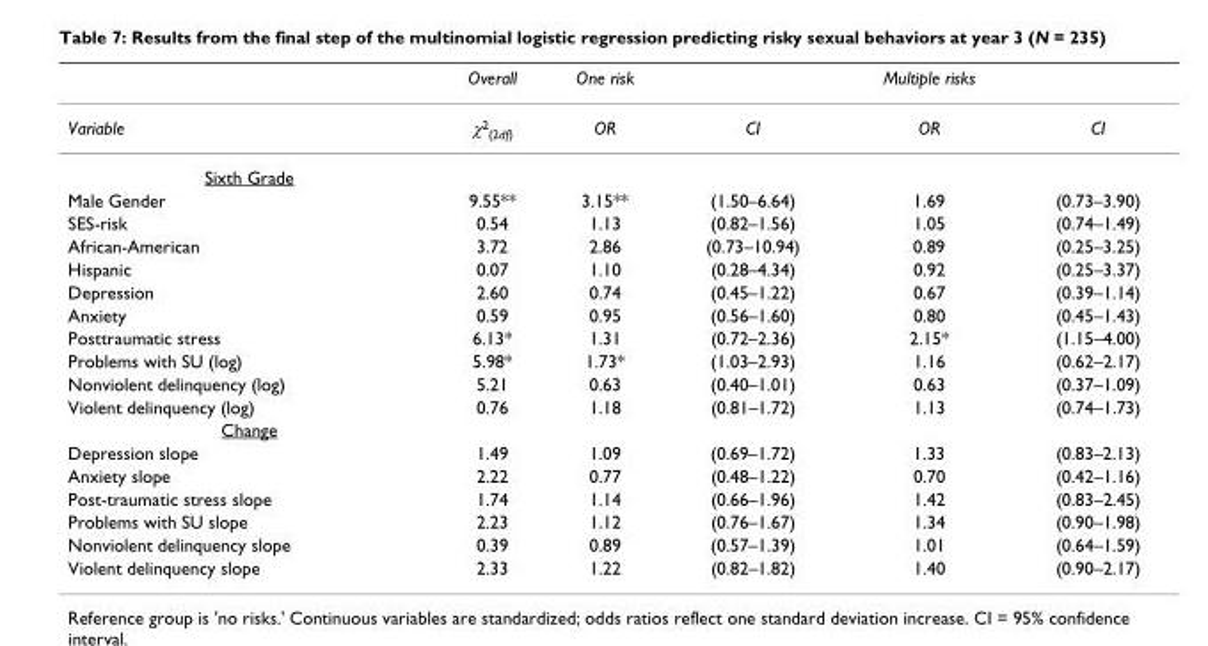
<table><thead><tr><td></td><td>Overall</td><td>One risk</td><td></td><td>Multiple risks</td><td></td></tr></thead><tbody><tr><td>Variable</td><td>χ<sup>2</sup><sub>(2df)</sub></td><td>OR</td><td>CI</td><td>OR</td><td>CI</td></tr><tr><td colspan="6">Sixth Grade</td></tr><tr><td>Male Gender</td><td>9.55**</td><td>3.15**</td><td>(1.50–6.64)</td><td>1.69</td><td>(0.73–3.90)</td></tr><tr><td>SES-risk</td><td>0.54</td><td>1.13</td><td>(0.82–1.56)</td><td>1.05</td><td>(0.74–1.49)</td></tr><tr><td>African-American</td><td>3.72</td><td>2.86</td><td>(0.73–10.94)</td><td>0.89</td><td>(0.25–3.25)</td></tr><tr><td>Hispanic</td><td>0.07</td><td>1.10</td><td>(0.28–4.34)</td><td>0.92</td><td>(0.25–3.37)</td></tr><tr><td>Depression</td><td>2.60</td><td>0.74</td><td>(0.45–1.22)</td><td>0.67</td><td>(0.39–1.14)</td></tr><tr><td>Anxiety</td><td>0.59</td><td>0.95</td><td>(0.56–1.60)</td><td>0.80</td><td>(0.45–1.43)</td></tr><tr><td>Posttraumatic stress</td><td>6.13*</td><td>1.31</td><td>(0.72–2.36)</td><td>2.15*</td><td>(1.15–4.00)</td></tr><tr><td>Problems with SU (log)</td><td>5.98*</td><td>1.73*</td><td>(1.03–2.93)</td><td>1.16</td><td>(0.62–2.17)</td></tr><tr><td>Nonviolent delinquency (log)</td><td>5.21</td><td>0.63</td><td>(0.40–1.01)</td><td>0.63</td><td>(0.37–1.09)</td></tr><tr><td>Violent delinquency (log)</td><td>0.76</td><td>1.18</td><td>(0.81–1.72)</td><td>1.13</td><td>(0.74–1.73)</td></tr><tr><td colspan="6">Change</td></tr><tr><td>Depression slope</td><td>1.49</td><td>1.09</td><td>(0.69–1.72)</td><td>1.33</td><td>(0.83–2.13)</td></tr><tr><td>Anxiety slope</td><td>2.22</td><td>0.77</td><td>(0.48–1.22)</td><td>0.70</td><td>(0.42–1.16)</td></tr><tr><td>Post-traumatic stress slope</td><td>1.74</td><td>1.14</td><td>(0.66–1.96)</td><td>1.42</td><td>(0.83–2.45)</td></tr><tr><td>Problems with SU slope</td><td>2.23</td><td>1.12</td><td>(0.76–1.67)</td><td>1.34</td><td>(0.90–1.98)</td></tr><tr><td>Nonviolent delinquency slope</td><td>0.39</td><td>0.89</td><td>(0.57–1.39)</td><td>1.01</td><td>(0.64–1.59)</td></tr><tr><td>Violent delinquency slope</td><td>2.33</td><td>1.22</td><td>(0.82–1.82)</td><td>1.40</td><td>(0.90–2.17)</td></tr></tbody></table>